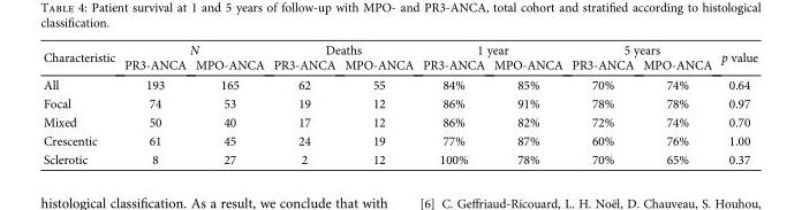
<table><thead><tr><td rowspan="2">Characteristic</td><td colspan="2">N</td><td colspan="2">Deaths</td><td colspan="2">1 year</td><td colspan="2">5 years</td><td rowspan="2">p value</td></tr><tr><td>PR3-ANCA</td><td>MPO-ANCA</td><td>PR3-ANCA</td><td>MPO-ANCA</td><td>PR3-ANCA</td><td>MPO-ANCA</td><td>PR3-ANCA</td><td>MPO-ANCA</td></tr></thead><tbody><tr><td>All</td><td>193</td><td>165</td><td>62</td><td>55</td><td>84%</td><td>85%</td><td>70%</td><td>74%</td><td>0.64</td></tr><tr><td>Focal</td><td>74</td><td>53</td><td>19</td><td>12</td><td>86%</td><td>91%</td><td>78%</td><td>78%</td><td>0.97</td></tr><tr><td>Mixed</td><td>50</td><td>40</td><td>17</td><td>12</td><td>86%</td><td>82%</td><td>72%</td><td>74%</td><td>0.70</td></tr><tr><td>Crescentic</td><td>61</td><td>45</td><td>24</td><td>19</td><td>77%</td><td>87%</td><td>60%</td><td>76%</td><td>1.00</td></tr><tr><td>Sclerotic</td><td>8</td><td>27</td><td>2</td><td>12</td><td>100%</td><td>78%</td><td>70%</td><td>65%</td><td>0.37</td></tr></tbody></table>